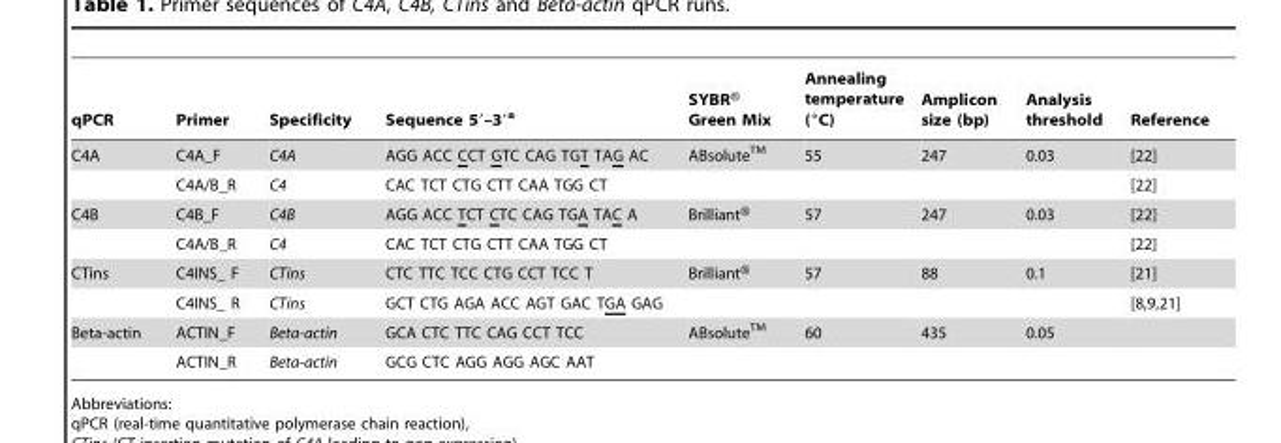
<table><thead><tr><td>qPCR</td><td>Primer</td><td>Specificity</td><td>Sequence 5′–3′<sup>a</sup></td><td>SYBR® Green Mix</td><td>Annealing temperature (°C)</td><td>Amplicon size (bp)</td><td>Analysis threshold</td><td>Reference</td></tr></thead><tbody><tr><td rowspan="2">C4A</td><td>C4A_F</td><td>C4A</td><td>AGG ACC CCT GTC CAG TGT TAG AC</td><td>ABsoluteTM</td><td>55</td><td>247</td><td>0.03</td><td>[22]</td></tr><tr><td>C4A/B_R</td><td>C4</td><td>CAC TCT CTG CTT CAA TGG CT</td><td></td><td></td><td></td><td></td><td>[22]</td></tr><tr><td rowspan="2">C4B</td><td>C4B_F</td><td>C4B</td><td>AGG ACC TCT CTC CAG TGA TAC A</td><td>Brilliant®</td><td>57</td><td>247</td><td>0.03</td><td>[22]</td></tr><tr><td>C4A/B_R</td><td>C4</td><td>CAC TCT CTG CTT CAA TGG CT</td><td></td><td></td><td></td><td></td><td>[22]</td></tr><tr><td rowspan="2">CTins</td><td>C4INS_ F</td><td>CTins</td><td>CTC TTC TCC CTG CCT TCC T</td><td>Brilliant®</td><td>57</td><td>88</td><td>0.1</td><td>[21]</td></tr><tr><td>C4INS_ R</td><td>CTins</td><td>GCT CTG AGA ACC AGT GAC TGA GAG</td><td></td><td></td><td></td><td></td><td>[8,9,21]</td></tr><tr><td rowspan="2">Beta-actin</td><td>ACTIN_F</td><td>Beta-actin</td><td>GCA CTC TTC CAG CCT TCC</td><td>ABsoluteTM</td><td>60</td><td>435</td><td>0.05</td><td></td></tr><tr><td>ACTIN_R</td><td>Beta-actin</td><td>GCG CTC AGG AGG AGC AAT</td><td></td><td></td><td></td><td></td><td></td></tr></tbody></table>